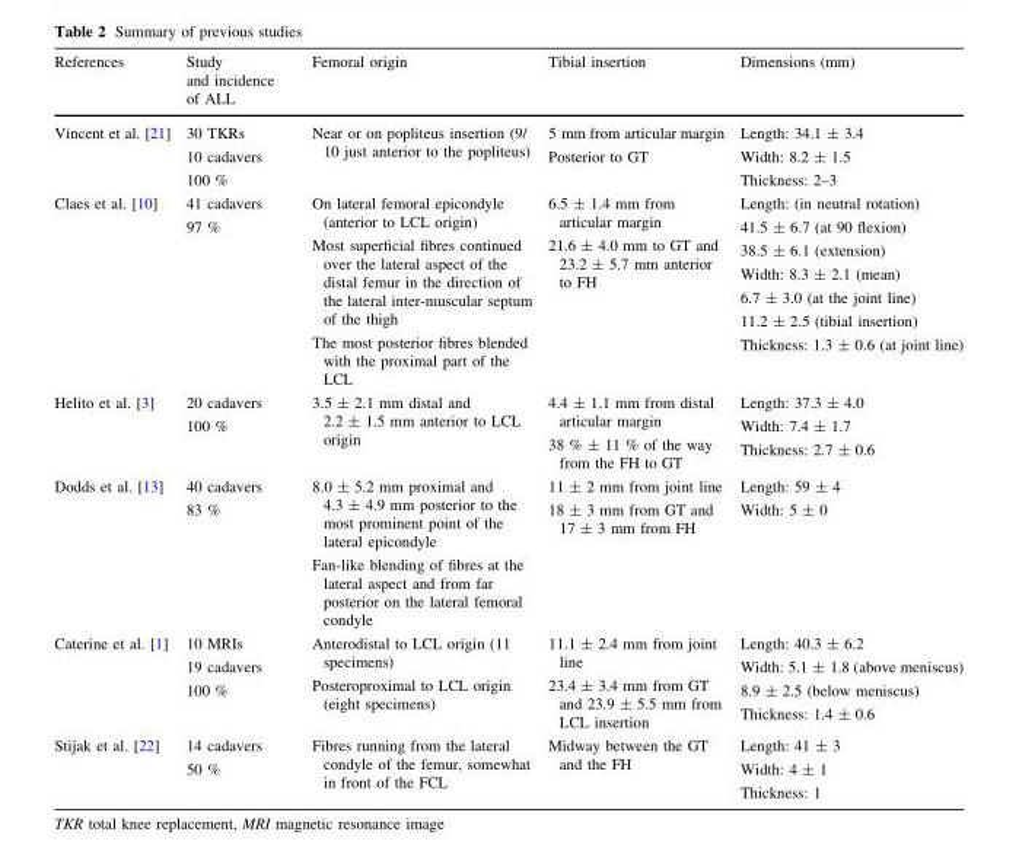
<table><thead><tr><td>References</td><td>Study and incidence of ALL</td><td>Femoral origin</td><td>Tibial insertion</td><td>Dimensions (mm)</td></tr></thead><tbody><tr><td>Vincent et al. [21]</td><td>30 TKRs 10 cadavers 100 %</td><td>Near or on popliteus insertion (9/ 10 just anterior to the popliteus)</td><td>5 mm from articular margin Posterior to GT</td><td>Length: 34.1 ± 3.4 Width: 8.2 ± 1.5 Thickness: 2–3</td></tr><tr><td>Claes et al. [10]</td><td>41 cadavers 97 %</td><td>On lateral femoral epicondyle (anterior to LCL origin) Most superficial fibres continued over the lateral aspect of the distal femur in the direction of the lateral inter-muscular septum of the thigh The most posterior fibres blended with the proximal part of the LCL</td><td>6.5 ± 1.4 mm from articular margin 21.6 ± 4.0 mm to GT and 23.2 ± 5.7 mm anterior to FH</td><td>Length: (in neutral rotation) 41.5 ± 6.7 (at 90 flexion) 38.5 ± 6.1 (extension) Width: 8.3 ± 2.1 (mean) 6.7 ± 3.0 (at the joint line) 11.2 ± 2.5 (tibial insertion) Thickness: 1.3 ± 0.6 (at joint line)</td></tr><tr><td>Helito et al. [3]</td><td>20 cadavers 100 %</td><td>3.5 ± 2.1 mm distal and 2.2 ± 1.5 mm anterior to LCL origin</td><td>4.4 ± 1.1 mm from distal articular margin 38 % ± 11 % of the way from the FH to GT</td><td>Length: 37.3 ± 4.0 Width: 7.4 ± 1.7 Thickness: 2.7 ± 0.6</td></tr><tr><td>Dodds et al. [13]</td><td>40 cadavers 83 %</td><td>8.0 ± 5.2 mm proximal and 4.3 ± 4.9 mm posterior to the most prominent point of the lateral epicondyle Fan-like blending of fibres at the lateral aspect and from far posterior on the lateral femoral condyle</td><td>11 ± 2 mm from joint line 18 ± 3 mm from GT and 17 ± 3 mm from FH</td><td>Length: 59 ± 4 Width: 5 ± 0</td></tr><tr><td>Caterine et al. [1]</td><td>10 MRIs 19 cadavers 100 %</td><td>Anterodistal to LCL origin (11 specimens) Posteroproximal to LCL origin (eight specimens)</td><td>11.1 ± 2.4 mm from joint line 23.4 ± 3.4 mm from GT and 23.9 ± 5.5 mm from LCL insertion</td><td>Length: 40.3 ± 6.2 Width: 5.1 ± 1.8 (above meniscus) 8.9 ± 2.5 (below meniscus) Thickness: 1.4 ± 0.6</td></tr><tr><td>Stijak et al. [22]</td><td>14 cadavers 50 %</td><td>Fibres running from the lateral condyle of the femur, somewhat in front of the FCL</td><td>Midway between the GT and the FH</td><td>Length: 41 ± 3 Width: 4 ± 1 Thickness: 1</td></tr></tbody></table>